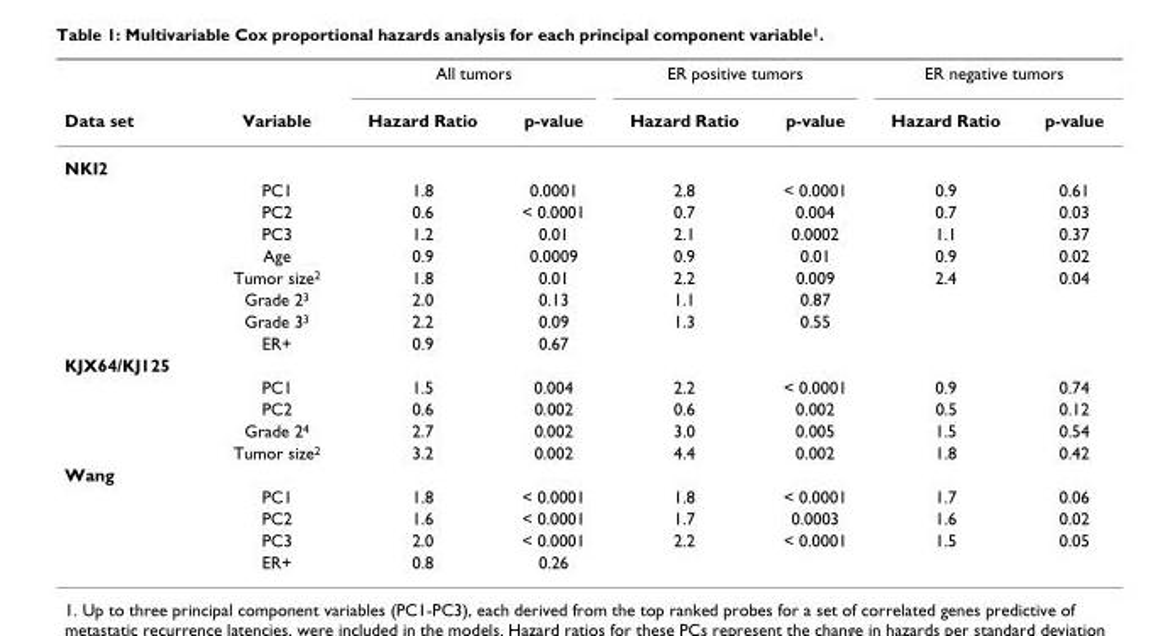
<table><thead><tr><td rowspan="2">Data set</td><td rowspan="2">Variable</td><td colspan="2">All tumors</td><td colspan="2">ER positive tumors</td><td colspan="2">ER negative tumors</td></tr><tr><td>Hazard Ratio</td><td>p-value</td><td>Hazard Ratio</td><td>p-value</td><td>Hazard Ratio</td><td>p-value</td></tr></thead><tbody><tr><td colspan="8">NKI2</td></tr><tr><td></td><td>PC1</td><td>1.8</td><td>0.0001</td><td>2.8</td><td>&lt; 0.0001</td><td>0.9</td><td>0.61</td></tr><tr><td></td><td>PC2</td><td>0.6</td><td>&lt; 0.0001</td><td>0.7</td><td>0.004</td><td>0.7</td><td>0.03</td></tr><tr><td></td><td>PC3</td><td>1.2</td><td>0.01</td><td>2.1</td><td>0.0002</td><td>1.1</td><td>0.37</td></tr><tr><td></td><td>Age</td><td>0.9</td><td>0.0009</td><td>0.9</td><td>0.01</td><td>0.9</td><td>0.02</td></tr><tr><td></td><td>Tumor size<sup>2</sup></td><td>1.8</td><td>0.01</td><td>2.2</td><td>0.009</td><td>2.4</td><td>0.04</td></tr><tr><td></td><td>Grade 2<sup>3</sup></td><td>2.0</td><td>0.13</td><td>1.1</td><td>0.87</td><td></td><td></td></tr><tr><td></td><td>Grade 3<sup>3</sup></td><td>2.2</td><td>0.09</td><td>1.3</td><td>0.55</td><td></td><td></td></tr><tr><td></td><td>ER+</td><td>0.9</td><td>0.67</td><td></td><td></td><td></td><td></td></tr><tr><td colspan="8">KJX64/KJ125</td></tr><tr><td></td><td>PC1</td><td>1.5</td><td>0.004</td><td>2.2</td><td>&lt; 0.0001</td><td>0.9</td><td>0.74</td></tr><tr><td></td><td>PC2</td><td>0.6</td><td>0.002</td><td>0.6</td><td>0.002</td><td>0.5</td><td>0.12</td></tr><tr><td></td><td>Grade 2<sup>4</sup></td><td>2.7</td><td>0.002</td><td>3.0</td><td>0.005</td><td>1.5</td><td>0.54</td></tr><tr><td></td><td>Tumor size<sup>2</sup></td><td>3.2</td><td>0.002</td><td>4.4</td><td>0.002</td><td>1.8</td><td>0.42</td></tr><tr><td colspan="8">Wang</td></tr><tr><td></td><td>PC1</td><td>1.8</td><td>&lt; 0.0001</td><td>1.8</td><td>&lt; 0.0001</td><td>1.7</td><td>0.06</td></tr><tr><td></td><td>PC2</td><td>1.6</td><td>&lt; 0.0001</td><td>1.7</td><td>0.0003</td><td>1.6</td><td>0.02</td></tr><tr><td></td><td>PC3</td><td>2.0</td><td>&lt; 0.0001</td><td>2.2</td><td>&lt; 0.0001</td><td>1.5</td><td>0.05</td></tr><tr><td></td><td>ER+</td><td>0.8</td><td>0.26</td><td></td><td></td><td></td><td></td></tr></tbody></table>